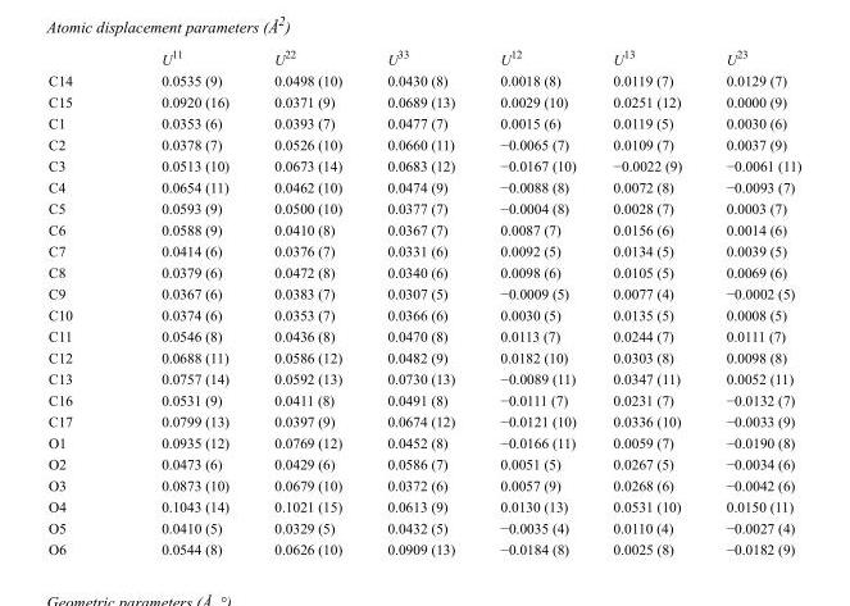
<table><thead><tr><td></td><td>U<sup>11</sup></td><td>U<sup>22</sup></td><td>U<sup>33</sup></td><td>U<sup>12</sup></td><td>U<sup>13</sup></td><td>U<sup>23</sup></td></tr></thead><tbody><tr><td>C14</td><td>0.0535 (9)</td><td>0.0498 (10)</td><td>0.0430 (8)</td><td>0.0018 (8)</td><td>0.0119 (7)</td><td>0.0129 (7)</td></tr><tr><td>C15</td><td>0.0920 (16)</td><td>0.0371 (9)</td><td>0.0689 (13)</td><td>0.0029 (10)</td><td>0.0251 (12)</td><td>0.0000 (9)</td></tr><tr><td>C1</td><td>0.0353 (6)</td><td>0.0393 (7)</td><td>0.0477 (7)</td><td>0.0015 (6)</td><td>0.0119 (5)</td><td>0.0030 (6)</td></tr><tr><td>C2</td><td>0.0378 (7)</td><td>0.0526 (10)</td><td>0.0660 (11)</td><td>−0.0065 (7)</td><td>0.0109 (7)</td><td>0.0037 (9)</td></tr><tr><td>C3</td><td>0.0513 (10)</td><td>0.0673 (14)</td><td>0.0683 (12)</td><td>−0.0167 (10)</td><td>−0.0022 (9)</td><td>−0.0061 (11)</td></tr><tr><td>C4</td><td>0.0654 (11)</td><td>0.0462 (10)</td><td>0.0474 (9)</td><td>−0.0088 (8)</td><td>0.0072 (8)</td><td>−0.0093 (7)</td></tr><tr><td>C5</td><td>0.0593 (9)</td><td>0.0500 (10)</td><td>0.0377 (7)</td><td>−0.0004 (8)</td><td>0.0028 (7)</td><td>0.0003 (7)</td></tr><tr><td>C6</td><td>0.0588 (9)</td><td>0.0410 (8)</td><td>0.0367 (7)</td><td>0.0087 (7)</td><td>0.0156 (6)</td><td>0.0014 (6)</td></tr><tr><td>C7</td><td>0.0414 (6)</td><td>0.0376 (7)</td><td>0.0331 (6)</td><td>0.0092 (5)</td><td>0.0134 (5)</td><td>0.0039 (5)</td></tr><tr><td>C8</td><td>0.0379 (6)</td><td>0.0472 (8)</td><td>0.0340 (6)</td><td>0.0098 (6)</td><td>0.0105 (5)</td><td>0.0069 (6)</td></tr><tr><td>C9</td><td>0.0367 (6)</td><td>0.0383 (7)</td><td>0.0307 (5)</td><td>−0.0009 (5)</td><td>0.0077 (4)</td><td>−0.0002 (5)</td></tr><tr><td>C10</td><td>0.0374 (6)</td><td>0.0353 (7)</td><td>0.0366 (6)</td><td>0.0030 (5)</td><td>0.0135 (5)</td><td>0.0008 (5)</td></tr><tr><td>C11</td><td>0.0546 (8)</td><td>0.0436 (8)</td><td>0.0470 (8)</td><td>0.0113 (7)</td><td>0.0244 (7)</td><td>0.0111 (7)</td></tr><tr><td>C12</td><td>0.0688 (11)</td><td>0.0586 (12)</td><td>0.0482 (9)</td><td>0.0182 (10)</td><td>0.0303 (8)</td><td>0.0098 (8)</td></tr><tr><td>C13</td><td>0.0757 (14)</td><td>0.0592 (13)</td><td>0.0730 (13)</td><td>−0.0089 (11)</td><td>0.0347 (11)</td><td>0.0052 (11)</td></tr><tr><td>C16</td><td>0.0531 (9)</td><td>0.0411 (8)</td><td>0.0491 (8)</td><td>−0.0111 (7)</td><td>0.0231 (7)</td><td>−0.0132 (7)</td></tr><tr><td>C17</td><td>0.0799 (13)</td><td>0.0397 (9)</td><td>0.0674 (12)</td><td>−0.0121 (10)</td><td>0.0336 (10)</td><td>−0.0033 (9)</td></tr><tr><td>O1</td><td>0.0935 (12)</td><td>0.0769 (12)</td><td>0.0452 (8)</td><td>−0.0166 (11)</td><td>0.0059 (7)</td><td>−0.0190 (8)</td></tr><tr><td>O2</td><td>0.0473 (6)</td><td>0.0429 (6)</td><td>0.0586 (7)</td><td>0.0051 (5)</td><td>0.0267 (5)</td><td>−0.0034 (6)</td></tr><tr><td>O3</td><td>0.0873 (10)</td><td>0.0679 (10)</td><td>0.0372 (6)</td><td>0.0057 (9)</td><td>0.0268 (6)</td><td>−0.0042 (6)</td></tr><tr><td>O4</td><td>0.1043 (14)</td><td>0.1021 (15)</td><td>0.0613 (9)</td><td>0.0130 (13)</td><td>0.0531 (10)</td><td>0.0150 (11)</td></tr><tr><td>O5</td><td>0.0410 (5)</td><td>0.0329 (5)</td><td>0.0432 (5)</td><td>−0.0035 (4)</td><td>0.0110 (4)</td><td>−0.0027 (4)</td></tr><tr><td>O6</td><td>0.0544 (8)</td><td>0.0626 (10)</td><td>0.0909 (13)</td><td>−0.0184 (8)</td><td>0.0025 (8)</td><td>−0.0182 (9)</td></tr></tbody></table>